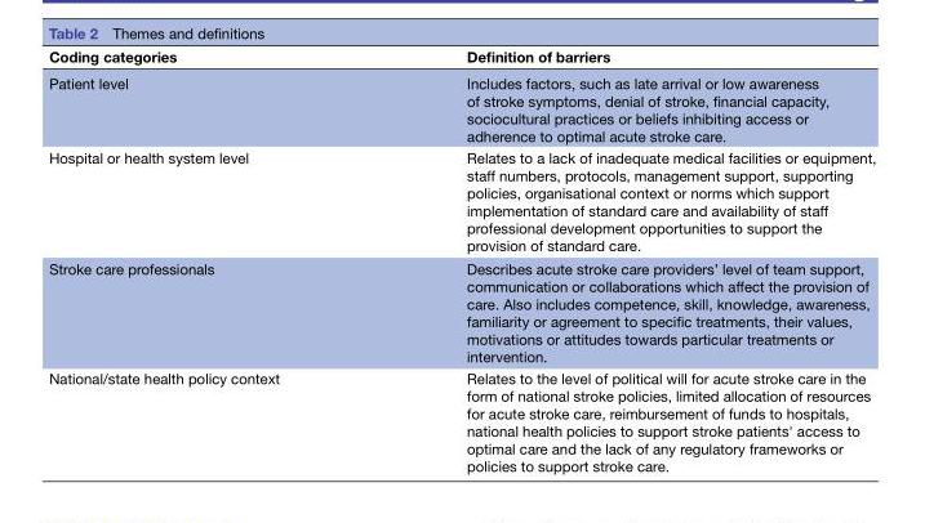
<table><thead><tr><td>Coding categories</td><td>Definition of barriers</td></tr></thead><tbody><tr><td>Patient level</td><td>Includes factors, such as late arrival or low awareness of stroke symptoms, denial of stroke, financial capacity, sociocultural practices or beliefs inhibiting access or adherence to optimal acute stroke care.</td></tr><tr><td>Hospital or health system level</td><td>Relates to a lack of inadequate medical facilities or equipment, staff numbers, protocols, management support, supporting policies, organisational context or norms which support implementation of standard care and availability of staff professional development opportunities to support the provision of standard care.</td></tr><tr><td>Stroke care professionals</td><td>Describes acute stroke care providers’ level of team support, communication or collaborations which affect the provision of care. Also includes competence, skill, knowledge, awareness, familiarity or agreement to specific treatments, their values, motivations or attitudes towards particular treatments or intervention.</td></tr><tr><td>National/state health policy context</td><td>Relates to the level of political will for acute stroke care in the form of national stroke policies, limited allocation of resources for acute stroke care, reimbursement of funds to hospitals, national health policies to support stroke patients&#x27; access to optimal care and the lack of any regulatory frameworks or policies to support stroke care.</td></tr></tbody></table>